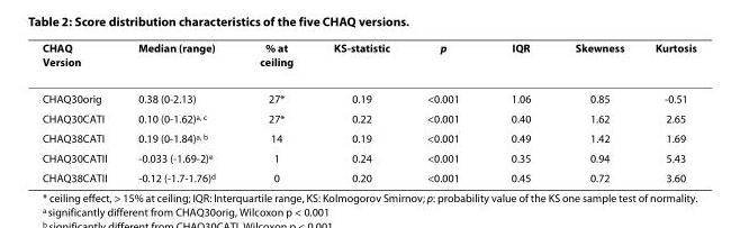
<table><thead><tr><td>CHAQ Version</td><td>Median (range)</td><td>% at ceiling</td><td>KS-statistic</td><td>p</td><td>IQR</td><td>Skewness</td><td>Kurtosis</td></tr></thead><tbody><tr><td>CHAQ30orig</td><td>0.38 (0-2.13)</td><td>27*</td><td>0.19</td><td>&lt;0.001</td><td>1.06</td><td>0.85</td><td>-0.51</td></tr><tr><td>CHAQ30CATI</td><td>0.10 (0-1.62)<sup>a, c</sup></td><td>27*</td><td>0.22</td><td>&lt;0.001</td><td>0.40</td><td>1.62</td><td>2.65</td></tr><tr><td>CHAQ38CATI</td><td>0.19 (0-1.84)<sup>a, b</sup></td><td>14</td><td>0.19</td><td>&lt;0.001</td><td>0.49</td><td>1.42</td><td>1.69</td></tr><tr><td>CHAQ30CATII</td><td>-0.033 (-1.69-2)<sup>e</sup></td><td>1</td><td>0.24</td><td>&lt;0.001</td><td>0.35</td><td>0.94</td><td>5.43</td></tr><tr><td>CHAQ38CATII</td><td>-0.12 (-1.7-1.76)<sup>d</sup></td><td>0</td><td>0.20</td><td>&lt;0.001</td><td>0.45</td><td>0.72</td><td>3.60</td></tr></tbody></table>